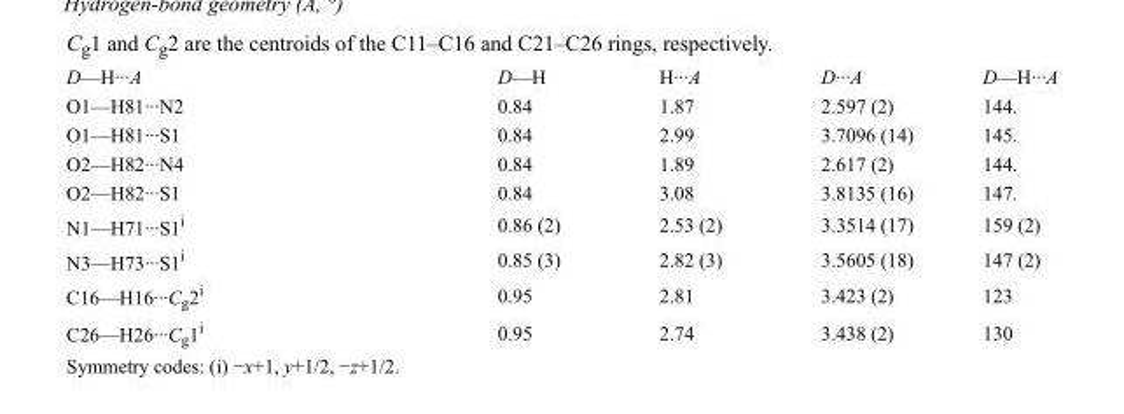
<table><tbody><tr><td>D—H···A</td><td>D—H</td><td>H···A</td><td>D···A</td><td>D—H···A</td></tr><tr><td>O1—H81···N2</td><td>0.84</td><td>1.87</td><td>2.597 (2)</td><td>144.</td></tr><tr><td>O1—H81···S1</td><td>0.84</td><td>2.99</td><td>3.7096 (14)</td><td>145.</td></tr><tr><td>O2—H82···N4</td><td>0.84</td><td>1.89</td><td>2.617 (2)</td><td>144.</td></tr><tr><td>O2—H82···S1</td><td>0.84</td><td>3.08</td><td>3.8135 (16)</td><td>147.</td></tr><tr><td>N1—H71···S1<sup>i</sup></td><td>0.86 (2)</td><td>2.53 (2)</td><td>3.3514 (17)</td><td>159 (2)</td></tr><tr><td>N3—H73···S1<sup>i</sup></td><td>0.85 (3)</td><td>2.82 (3)</td><td>3.5605 (18)</td><td>147 (2)</td></tr><tr><td>C16—H16···C<sub>g</sub>2<sup>i</sup></td><td>0.95</td><td>2.81</td><td>3.423 (2)</td><td>123</td></tr><tr><td>C26—H26···C<sub>g</sub>1<sup>i</sup></td><td>0.95</td><td>2.74</td><td>3.438 (2)</td><td>130</td></tr></tbody></table>